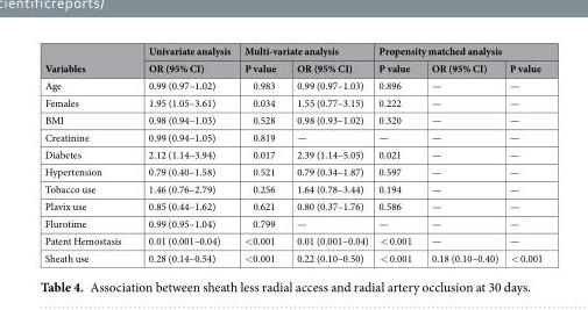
<table><thead><tr><td rowspan="2">Variables</td><td rowspan="2">Univariate analysis OR (95% CI)</td><td colspan="2">Multi-variate analysis</td><td colspan="3">Propensity matched analysis</td></tr><tr><td>P value</td><td>OR (95% CI)</td><td>P value</td><td>OR (95% CI)</td><td>P value</td></tr></thead><tbody><tr><td>Age</td><td>0.99 (0.97–1.02)</td><td>0.983</td><td>0.99 (0.97–1.03)</td><td>0.896</td><td>—</td><td>—</td></tr><tr><td>Females</td><td>1.95 (1.05–3.61)</td><td>0.034</td><td>1.55 (0.77–3.15)</td><td>0.222</td><td>—</td><td>—</td></tr><tr><td>BMI</td><td>0.98 (0.94–1.03)</td><td>0.528</td><td>0.98 (0.93–1.02)</td><td>0.320</td><td>—</td><td>—</td></tr><tr><td>Creatinine</td><td>0.99 (0.94–1.05)</td><td>0.819</td><td>—</td><td>—</td><td>—</td><td>—</td></tr><tr><td>Diabetes</td><td>2.12 (1.14–3.94)</td><td>0.017</td><td>2.39 (1.14–5.05)</td><td>0.021</td><td>—</td><td>—</td></tr><tr><td>Hypertension</td><td>0.79 (0.40–1.58)</td><td>0.521</td><td>0.79 (0.34–1.87)</td><td>0.597</td><td>—</td><td>—</td></tr><tr><td>Tobacco use</td><td>1.46 (0.76–2.79)</td><td>0.256</td><td>1.64 (0.78–3.44)</td><td>0.194</td><td>—</td><td>—</td></tr><tr><td>Plavix use</td><td>0.85 (0.44–1.62)</td><td>0.621</td><td>0.80 (0.37–1.76)</td><td>0.586</td><td>—</td><td>—</td></tr><tr><td>Flurotime</td><td>0.99 (0.95–1.04)</td><td>0.799</td><td>—</td><td>—</td><td>—</td><td>—</td></tr><tr><td>Patent Hemostasis</td><td>0.01 (0.001–0.04)</td><td>&lt;0.001</td><td>0.01 (0.001–0.04)</td><td>&lt; 0.001</td><td>—</td><td>—</td></tr><tr><td>Sheath use</td><td>0.28 (0.14–0.54)</td><td>&lt;0.001</td><td>0.22 (0.10–0.50)</td><td>&lt; 0.001</td><td>0.18 (0.10–0.40)</td><td>&lt; 0.001</td></tr></tbody></table>